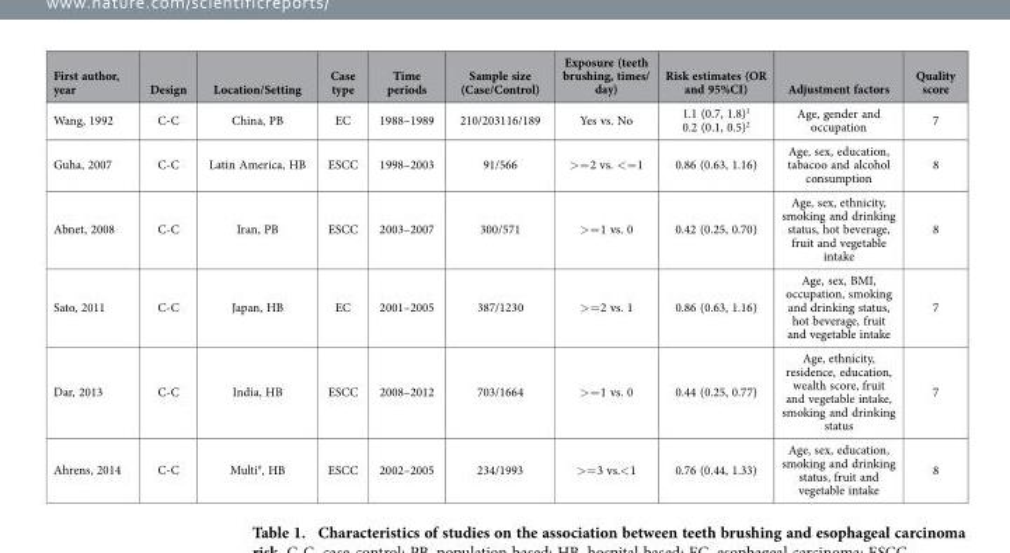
<table><thead><tr><td>First author, year</td><td>Design</td><td>Location/Setting</td><td>Case type</td><td>Time periods</td><td>Sample size (Case/Control)</td><td>Exposure (teeth brushing, times/ day)</td><td>Risk estimates (OR and 95%CI)</td><td>Adjustment factors</td><td>Quality score</td></tr></thead><tbody><tr><td>Wang, 1992</td><td>C-C</td><td>China, PB</td><td>EC</td><td>1988–1989</td><td>210/203116/189</td><td>Yes vs. No</td><td>1.1 (0.7, 1.8)<sup>1</sup> 0.2 (0.1, 0.5)<sup>2</sup></td><td>Age, gender and occupation</td><td>7</td></tr><tr><td>Guha, 2007</td><td>C-C</td><td>Latin America, HB</td><td>ESCC</td><td>1998–2003</td><td>91/566</td><td>&gt; = 2 vs. &lt; = 1</td><td>0.86 (0.63, 1.16)</td><td>Age, sex, education, tabacoo and alcohol consumption</td><td>8</td></tr><tr><td>Abnet, 2008</td><td>C-C</td><td>Iran, PB</td><td>ESCC</td><td>2003–2007</td><td>300/571</td><td>&gt; = 1 vs. 0</td><td>0.42 (0.25, 0.70)</td><td>Age, sex, ethnicity, smoking and drinking status, hot beverage, fruit and vegetable intake</td><td>8</td></tr><tr><td>Sato, 2011</td><td>C-C</td><td>Japan, HB</td><td>EC</td><td>2001–2005</td><td>387/1230</td><td>&gt; = 2 vs. 1</td><td>0.86 (0.63, 1.16)</td><td>Age, sex, BMI, occupation, smoking and drinking status, hot beverage, fruit and vegetable intake</td><td>7</td></tr><tr><td>Dar, 2013</td><td>C-C</td><td>India, HB</td><td>ESCC</td><td>2008–2012</td><td>703/1664</td><td>&gt; = 1 vs. 0</td><td>0.44 (0.25, 0.77)</td><td>Age, ethnicity, residence, education, wealth score, fruit and vegetable intake, smoking and drinking status</td><td>7</td></tr><tr><td>Ahrens, 2014</td><td>C-C</td><td>Multi#, HB</td><td>ESCC</td><td>2002–2005</td><td>234/1993</td><td>&gt; = 3 vs.&lt; 1</td><td>0.76 (0.44, 1.33)</td><td>Age, sex, education, smoking and drinking status, fruit and vegetable intake</td><td>8</td></tr></tbody></table>